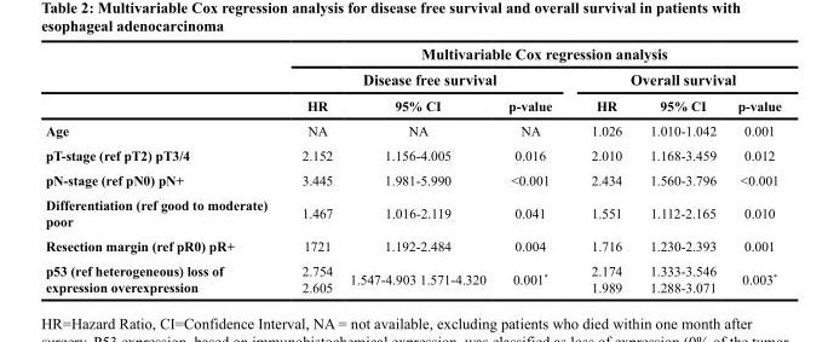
<table><thead><tr><td rowspan="3"></td><td colspan="6">Multivariable Cox regression analysis</td></tr><tr><td colspan="3">Disease free survival</td><td colspan="3">Overall survival</td></tr><tr><td>HR</td><td>95% CI</td><td>p-value</td><td>HR</td><td>95% CI</td><td>p-value</td></tr></thead><tbody><tr><td>Age</td><td>NA</td><td>NA</td><td>NA</td><td>1.026</td><td>1.010-1.042</td><td>0.001</td></tr><tr><td>pT-stage (ref pT2) pT3/4</td><td>2.152</td><td>1.156-4.005</td><td>0.016</td><td>2.010</td><td>1.168-3.459</td><td>0.012</td></tr><tr><td>pN-stage (ref pN0) pN+</td><td>3.445</td><td>1.981-5.990</td><td>&lt;0.001</td><td>2.434</td><td>1.560-3.796</td><td>&lt;0.001</td></tr><tr><td>Differentiation (ref good to moderate) poor</td><td>1.467</td><td>1.016-2.119</td><td>0.041</td><td>1.551</td><td>1.112-2.165</td><td>0.010</td></tr><tr><td>Resection margin (ref pR0) pR+</td><td>1721</td><td>1.192-2.484</td><td>0.004</td><td>1.716</td><td>1.230-2.393</td><td>0.001</td></tr><tr><td rowspan="2">p53 (ref heterogeneous) loss of expression overexpression</td><td>2.754</td><td rowspan="2">1.547-4.903 1.571-4.320</td><td rowspan="2">0.001*</td><td>2.174</td><td>1.333-3.546</td><td rowspan="2">0.003*</td></tr><tr><td>2.605</td><td>1.989</td><td>1.288-3.071</td></tr></tbody></table>